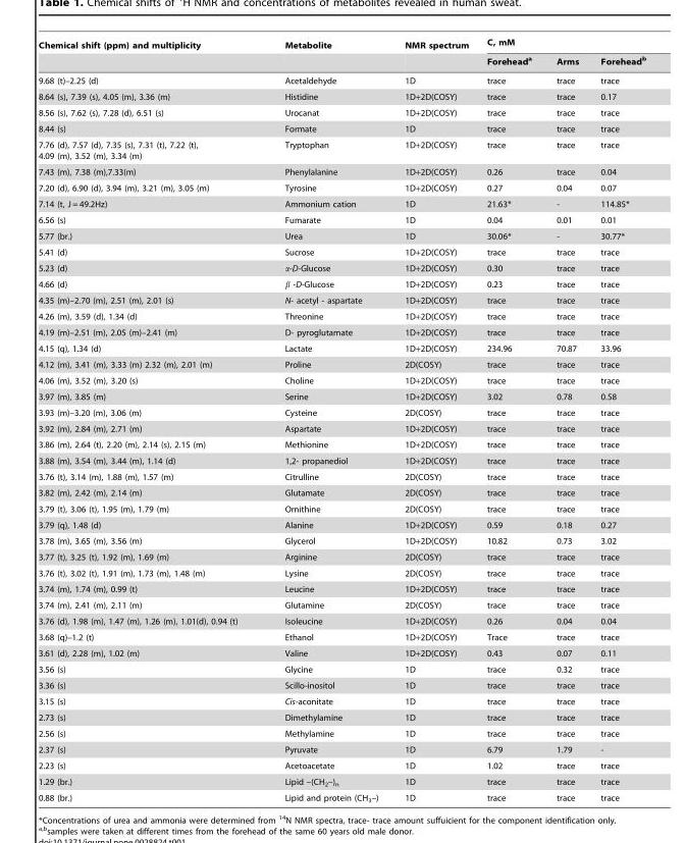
<table><thead><tr><td rowspan="2">Chemical shift (ppm) and multiplicity</td><td rowspan="2">Metabolite</td><td rowspan="2">NMR spectrum</td><td colspan="3">C, mM</td></tr><tr><td>Forehead<sup>a</sup></td><td>Arms</td><td>Forehead<sup>b</sup></td></tr></thead><tbody><tr><td>9.68 (t)–2.25 (d)</td><td>Acetaldehyde</td><td>1D</td><td>trace</td><td>trace</td><td>trace</td></tr><tr><td>8.64 (s), 7.39 (s), 4.05 (m), 3.36 (m)</td><td>Histidine</td><td>1D+2D(COSY)</td><td>trace</td><td>trace</td><td>0.17</td></tr><tr><td>8.56 (s), 7.62 (s), 7.28 (d), 6.51 (s)</td><td>Urocanat</td><td>1D+2D(COSY)</td><td>trace</td><td>trace</td><td>trace</td></tr><tr><td>8.44 (s)</td><td>Formate</td><td>1D</td><td>trace</td><td>trace</td><td>trace</td></tr><tr><td>7.76 (d), 7.57 (d), 7.35 (s), 7.31 (t), 7.22 (t), 4.09 (m), 3.52 (m), 3.34 (m)</td><td>Tryptophan</td><td>1D+2D(COSY)</td><td>trace</td><td>trace</td><td>trace</td></tr><tr><td>7.43 (m), 7.38 (m),7.33(m)</td><td>Phenylalanine</td><td>1D+2D(COSY)</td><td>0.26</td><td>trace</td><td>0.04</td></tr><tr><td>7.20 (d), 6.90 (d), 3.94 (m), 3.21 (m), 3.05 (m)</td><td>Tyrosine</td><td>1D+2D(COSY)</td><td>0.27</td><td>0.04</td><td>0.07</td></tr><tr><td>7.14 (t, J = 49.2Hz)</td><td>Ammonium cation</td><td>1D</td><td>21.63*</td><td>-</td><td>114.85*</td></tr><tr><td>6.56 (s)</td><td>Fumarate</td><td>1D</td><td>0.04</td><td>0.01</td><td>0.01</td></tr><tr><td>5.77 (br.)</td><td>Urea</td><td>1D</td><td>30.06*</td><td>-</td><td>30.77*</td></tr><tr><td>5.41 (d)</td><td>Sucrose</td><td>1D+2D(COSY)</td><td>trace</td><td>trace</td><td>trace</td></tr><tr><td>5.23 (d)</td><td>α-D-Glucose</td><td>1D+2D(COSY)</td><td>0.30</td><td>trace</td><td>trace</td></tr><tr><td>4.66 (d)</td><td>β -D-Glucose</td><td>1D+2D(COSY)</td><td>0.23</td><td>trace</td><td>trace</td></tr><tr><td>4.35 (m)–2.70 (m), 2.51 (m), 2.01 (s)</td><td>N- acetyl - aspartate</td><td>1D+2D(COSY)</td><td>trace</td><td>trace</td><td>trace</td></tr><tr><td>4.26 (m), 3.59 (d), 1.34 (d)</td><td>Threonine</td><td>1D+2D(COSY)</td><td>trace</td><td>trace</td><td>trace</td></tr><tr><td>4.19 (m)–2.51 (m), 2.05 (m)–2.41 (m)</td><td>D- pyroglutamate</td><td>1D+2D(COSY)</td><td>trace</td><td>trace</td><td>trace</td></tr><tr><td>4.15 (q), 1.34 (d)</td><td>Lactate</td><td>1D+2D(COSY)</td><td>234.96</td><td>70.87</td><td>33.96</td></tr><tr><td>4.12 (m), 3.41 (m), 3.33 (m) 2.32 (m), 2.01 (m)</td><td>Proline</td><td>2D(COSY)</td><td>trace</td><td>trace</td><td>trace</td></tr><tr><td>4.06 (m), 3.52 (m), 3.20 (s)</td><td>Choline</td><td>1D+2D(COSY)</td><td>trace</td><td>trace</td><td>trace</td></tr><tr><td>3.97 (m), 3.85 (m)</td><td>Serine</td><td>1D+2D(COSY)</td><td>3.02</td><td>0.78</td><td>0.58</td></tr><tr><td>3.93 (m)–3.20 (m), 3.06 (m)</td><td>Cysteine</td><td>2D(COSY)</td><td>trace</td><td>trace</td><td>trace</td></tr><tr><td>3.92 (m), 2.84 (m), 2.71 (m)</td><td>Aspartate</td><td>1D+2D(COSY)</td><td>trace</td><td>trace</td><td>trace</td></tr><tr><td>3.86 (m), 2.64 (t), 2.20 (m), 2.14 (s), 2.15 (m)</td><td>Methionine</td><td>1D+2D(COSY)</td><td>trace</td><td>trace</td><td>trace</td></tr><tr><td>3.88 (m), 3.54 (m), 3.44 (m), 1.14 (d)</td><td>1,2- propanediol</td><td>1D+2D(COSY)</td><td>trace</td><td>trace</td><td>trace</td></tr><tr><td>3.76 (t), 3.14 (m), 1.88 (m), 1.57 (m)</td><td>Citrulline</td><td>2D(COSY)</td><td>trace</td><td>trace</td><td>trace</td></tr><tr><td>3.82 (m), 2.42 (m), 2.14 (m)</td><td>Glutamate</td><td>2D(COSY)</td><td>trace</td><td>trace</td><td>trace</td></tr><tr><td>3.79 (t), 3.06 (t), 1.95 (m), 1.79 (m)</td><td>Ornithine</td><td>2D(COSY)</td><td>trace</td><td>trace</td><td>trace</td></tr><tr><td>3.79 (q), 1.48 (d)</td><td>Alanine</td><td>1D+2D(COSY)</td><td>0.59</td><td>0.18</td><td>0.27</td></tr><tr><td>3.78 (m), 3.65 (m), 3.56 (m)</td><td>Glycerol</td><td>1D+2D(COSY)</td><td>10.82</td><td>0.73</td><td>3.02</td></tr><tr><td>3.77 (t), 3.25 (t), 1.92 (m), 1.69 (m)</td><td>Arginine</td><td>2D(COSY)</td><td>trace</td><td>trace</td><td>trace</td></tr><tr><td>3.76 (t), 3.02 (t), 1.91 (m), 1.73 (m), 1.48 (m)</td><td>Lysine</td><td>2D(COSY)</td><td>trace</td><td>trace</td><td>trace</td></tr><tr><td>3.74 (m), 1.74 (m), 0.99 (t)</td><td>Leucine</td><td>1D+2D(COSY)</td><td>trace</td><td>trace</td><td>trace</td></tr><tr><td>3.74 (m), 2.41 (m), 2.11 (m)</td><td>Glutamine</td><td>2D(COSY)</td><td>trace</td><td>trace</td><td>trace</td></tr><tr><td>3.76 (d), 1.98 (m), 1.47 (m), 1.26 (m), 1.01(d), 0.94 (t)</td><td>Isoleucine</td><td>1D+2D(COSY)</td><td>0.26</td><td>0.04</td><td>0.04</td></tr><tr><td>3.68 (q)–1.2 (t)</td><td>Ethanol</td><td>1D+2D(COSY)</td><td>Trace</td><td>trace</td><td>trace</td></tr><tr><td>3.61 (d), 2.28 (m), 1.02 (m)</td><td>Valine</td><td>1D+2D(COSY)</td><td>0.43</td><td>0.07</td><td>0.11</td></tr><tr><td>3.56 (s)</td><td>Glycine</td><td>1D</td><td>trace</td><td>0.32</td><td>trace</td></tr><tr><td>3.36 (s)</td><td>Scillo-inositol</td><td>1D</td><td>trace</td><td>trace</td><td>trace</td></tr><tr><td>3.15 (s)</td><td>Cis-aconitate</td><td>1D</td><td>trace</td><td>trace</td><td>trace</td></tr><tr><td>2.73 (s)</td><td>Dimethylamine</td><td>1D</td><td>trace</td><td>trace</td><td>trace</td></tr><tr><td>2.56 (s)</td><td>Methylamine</td><td>1D</td><td>trace</td><td>trace</td><td>trace</td></tr><tr><td>2.37 (s)</td><td>Pyruvate</td><td>1D</td><td>6.79</td><td>1.79</td><td>-</td></tr><tr><td>2.23 (s)</td><td>Acetoacetate</td><td>1D</td><td>1.02</td><td>trace</td><td>trace</td></tr><tr><td>1.29 (br.)</td><td>Lipid –(CH<sub>2</sub>–)<sub>n</sub></td><td>1D</td><td>trace</td><td>trace</td><td>trace</td></tr><tr><td>0.88 (br.)</td><td>Lipid and protein (CH<sub>3</sub>–)</td><td>1D</td><td>trace</td><td>trace</td><td>trace</td></tr></tbody></table>